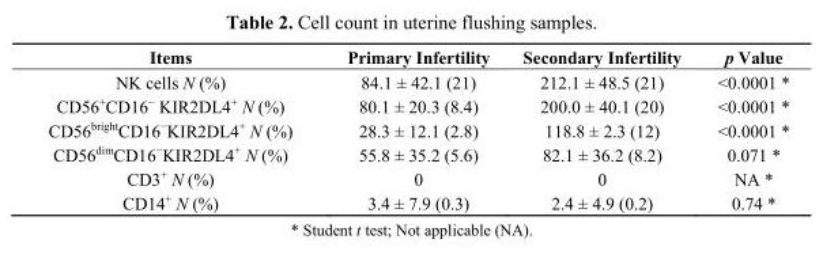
<table><thead><tr><td>Items</td><td>Primary Infertility</td><td>Secondary Infertility</td><td>p Value</td></tr></thead><tbody><tr><td>NK cells N (%)</td><td>84.1 ± 42.1 (21)</td><td>212.1 ± 48.5 (21)</td><td>&lt;0.0001 *</td></tr><tr><td>CD56<sup>+</sup>CD16<sup>−</sup> KIR2DL4<sup>+</sup> N (%)</td><td>80.1 ± 20.3 (8.4)</td><td>200.0 ± 40.1 (20)</td><td>&lt;0.0001 *</td></tr><tr><td>CD56<sup>bright</sup>CD16<sup>−</sup>KIR2DL4<sup>+</sup> N (%)</td><td>28.3 ± 12.1 (2.8)</td><td>118.8 ± 2.3 (12)</td><td>&lt;0.0001 *</td></tr><tr><td>CD56<sup>dim</sup>CD16<sup>−</sup>KIR2DL4<sup>+</sup> N (%)</td><td>55.8 ± 35.2 (5.6)</td><td>82.1 ± 36.2 (8.2)</td><td>0.071 *</td></tr><tr><td>CD3<sup>+</sup> N (%)</td><td>0</td><td>0</td><td>NA *</td></tr><tr><td>CD14<sup>+</sup> N (%)</td><td>3.4 ± 7.9 (0.3)</td><td>2.4 ± 4.9 (0.2)</td><td>0.74 *</td></tr></tbody></table>